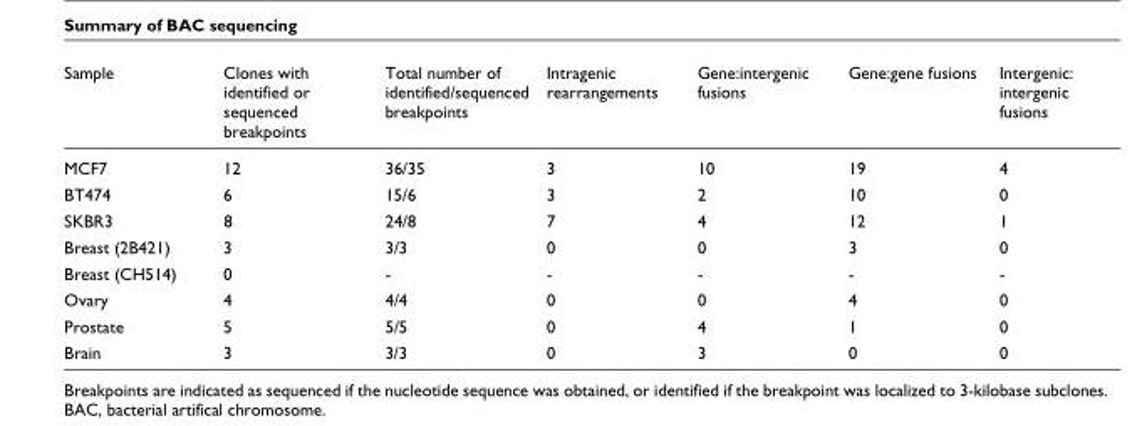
<table><thead><tr><td>Sample</td><td>Clones with identified or sequenced breakpoints</td><td>Total number of identified/sequenced breakpoints</td><td>Intragenic rearrangements</td><td>Gene:intergenic fusions</td><td>Gene:gene fusions</td><td>Intergenic: intergenic fusions</td></tr></thead><tbody><tr><td>MCF7</td><td>12</td><td>36/35</td><td>3</td><td>10</td><td>19</td><td>4</td></tr><tr><td>BT474</td><td>6</td><td>15/6</td><td>3</td><td>2</td><td>10</td><td>0</td></tr><tr><td>SKBR3</td><td>8</td><td>24/8</td><td>7</td><td>4</td><td>12</td><td>1</td></tr><tr><td>Breast (2B421)</td><td>3</td><td>3/3</td><td>0</td><td>0</td><td>3</td><td>0</td></tr><tr><td>Breast (CH514)</td><td>0</td><td>-</td><td>-</td><td>-</td><td>-</td><td>-</td></tr><tr><td>Ovary</td><td>4</td><td>4/4</td><td>0</td><td>0</td><td>4</td><td>0</td></tr><tr><td>Prostate</td><td>5</td><td>5/5</td><td>0</td><td>4</td><td>1</td><td>0</td></tr><tr><td>Brain</td><td>3</td><td>3/3</td><td>0</td><td>3</td><td>0</td><td>0</td></tr></tbody></table>